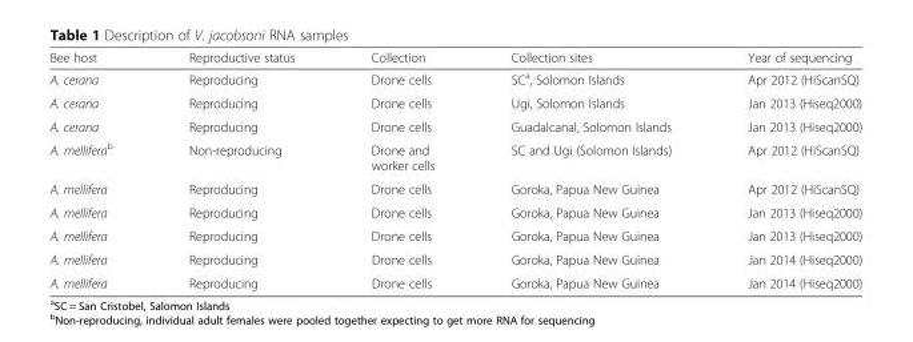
<table><thead><tr><td>Bee host</td><td>Reproductive status</td><td>Collection</td><td>Collection sites</td><td>Year of sequencing</td></tr></thead><tbody><tr><td>A. cerana</td><td>Reproducing</td><td>Drone cells</td><td>SC<sup>a</sup>, Solomon Islands</td><td>Apr 2012 (HiScanSQ)</td></tr><tr><td>A. cerana</td><td>Reproducing</td><td>Drone cells</td><td>Ugi, Solomon Islands</td><td>Jan 2013 (Hiseq2000)</td></tr><tr><td>A. cerana</td><td>Reproducing</td><td>Drone cells</td><td>Guadalcanal, Solomon Islands</td><td>Jan 2013 (Hiseq2000)</td></tr><tr><td>A. mellifera<sup>b</sup></td><td>Non-reproducing</td><td>Drone and worker cells</td><td>SC and Ugi (Solomon Islands)</td><td>Apr 2012 (HiScanSQ)</td></tr><tr><td>A. mellifera</td><td>Reproducing</td><td>Drone cells</td><td>Goroka, Papua New Guinea</td><td>Apr 2012 (HiScanSQ)</td></tr><tr><td>A. mellifera</td><td>Reproducing</td><td>Drone cells</td><td>Goroka, Papua New Guinea</td><td>Jan 2013 (Hiseq2000)</td></tr><tr><td>A. mellifera</td><td>Reproducing</td><td>Drone cells</td><td>Goroka, Papua New Guinea</td><td>Jan 2013 (Hiseq2000)</td></tr><tr><td>A. mellifera</td><td>Reproducing</td><td>Drone cells</td><td>Goroka, Papua New Guinea</td><td>Jan 2014 (Hiseq2000)</td></tr><tr><td>A. mellifera</td><td>Reproducing</td><td>Drone cells</td><td>Goroka, Papua New Guinea</td><td>Jan 2014 (Hiseq2000)</td></tr></tbody></table>